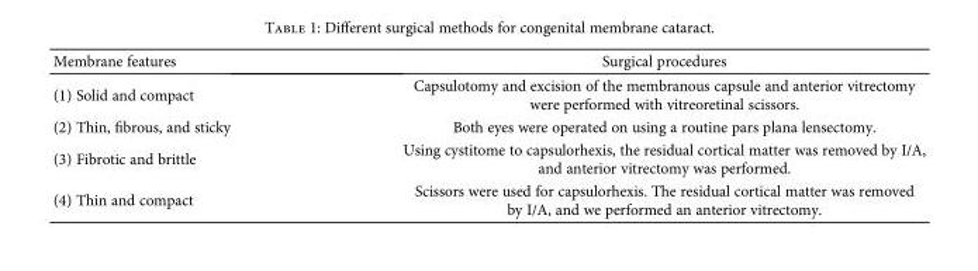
<table><thead><tr><td>Membrane features</td><td>Surgical procedures</td></tr></thead><tbody><tr><td>(1) Solid and compact</td><td>Capsulotomy and excision of the membranous capsule and anterior vitrectomy were performed with vitreoretinal scissors.</td></tr><tr><td>(2) Thin, fibrous, and sticky</td><td>Both eyes were operated on using a routine pars plana lensectomy.</td></tr><tr><td>(3) Fibrotic and brittle</td><td>Using cystitome to capsulorhexis, the residual cortical matter was removed by I/A, and anterior vitrectomy was performed.</td></tr><tr><td>(4) Thin and compact</td><td>Scissors were used for capsulorhexis. The residual cortical matter was removed by I/A, and we performed an anterior vitrectomy.</td></tr></tbody></table>